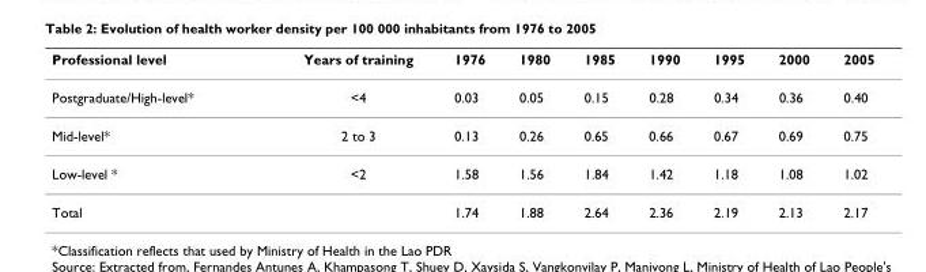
<table><thead><tr><td>Professional level</td><td>Years of training</td><td>1976</td><td>1980</td><td>1985</td><td>1990</td><td>1995</td><td>2000</td><td>2005</td></tr></thead><tbody><tr><td>Postgraduate/High-level*</td><td>&lt;4</td><td>0.03</td><td>0.05</td><td>0.15</td><td>0.28</td><td>0.34</td><td>0.36</td><td>0.40</td></tr><tr><td>Mid-level*</td><td>2 to 3</td><td>0.13</td><td>0.26</td><td>0.65</td><td>0.66</td><td>0.67</td><td>0.69</td><td>0.75</td></tr><tr><td>Low-level *</td><td>&lt;2</td><td>1.58</td><td>1.56</td><td>1.84</td><td>1.42</td><td>1.18</td><td>1.08</td><td>1.02</td></tr><tr><td>Total</td><td></td><td>1.74</td><td>1.88</td><td>2.64</td><td>2.36</td><td>2.19</td><td>2.13</td><td>2.17</td></tr></tbody></table>